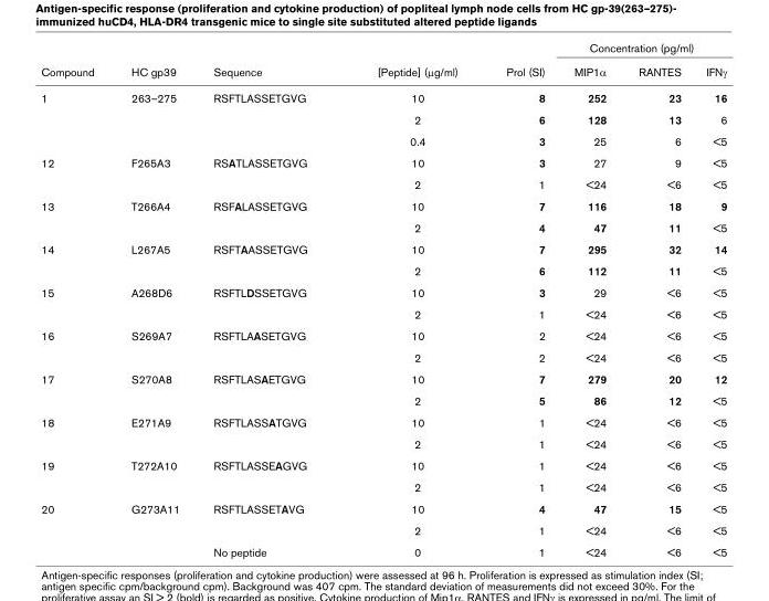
<table><thead><tr><td rowspan="2">Compound</td><td rowspan="2">HC gp39</td><td rowspan="2">Sequence</td><td rowspan="2">[Peptide] (μg/ml)</td><td rowspan="2">Prol (SI)</td><td colspan="3">Concentration (pg/ml)</td></tr><tr><td>MIP1α</td><td>RANTES</td><td>IFNγ</td></tr></thead><tbody><tr><td rowspan="3">1</td><td>263–275</td><td>RSFTLASSETGVG</td><td>10</td><td>8</td><td>252</td><td>23</td><td>16</td></tr><tr><td></td><td></td><td>2</td><td>6</td><td>128</td><td>13</td><td>6</td></tr><tr><td></td><td></td><td>0.4</td><td>3</td><td>25</td><td>6</td><td>&lt;5</td></tr><tr><td rowspan="2">12</td><td>F265A3</td><td>RSATLASSETGVG</td><td>10</td><td>3</td><td>27</td><td>9</td><td>&lt;5</td></tr><tr><td></td><td></td><td>2</td><td>1</td><td>&lt;24</td><td>&lt;6</td><td>&lt;5</td></tr><tr><td rowspan="2">13</td><td>T266A4</td><td>RSFALASSETGVG</td><td>10</td><td>7</td><td>116</td><td>18</td><td>9</td></tr><tr><td></td><td></td><td>2</td><td>4</td><td>47</td><td>11</td><td>&lt;5</td></tr><tr><td rowspan="2">14</td><td>L267A5</td><td>RSFTAASSETGVG</td><td>10</td><td>7</td><td>295</td><td>32</td><td>14</td></tr><tr><td></td><td></td><td>2</td><td>6</td><td>112</td><td>11</td><td>&lt;5</td></tr><tr><td rowspan="2">15</td><td>A268D6</td><td>RSFTLDSSETGVG</td><td>10</td><td>3</td><td>29</td><td>&lt;6</td><td>&lt;5</td></tr><tr><td></td><td></td><td>2</td><td>1</td><td>&lt;24</td><td>&lt;6</td><td>&lt;5</td></tr><tr><td rowspan="2">16</td><td>S269A7</td><td>RSFTLAASETGVG</td><td>10</td><td>2</td><td>&lt;24</td><td>&lt;6</td><td>&lt;5</td></tr><tr><td></td><td></td><td>2</td><td>2</td><td>&lt;24</td><td>&lt;6</td><td>&lt;5</td></tr><tr><td rowspan="2">17</td><td>S270A8</td><td>RSFTLASAETGVG</td><td>10</td><td>7</td><td>279</td><td>20</td><td>12</td></tr><tr><td></td><td></td><td>2</td><td>5</td><td>86</td><td>12</td><td>&lt;5</td></tr><tr><td rowspan="2">18</td><td>E271A9</td><td>RSFTLASSATGVG</td><td>10</td><td>1</td><td>&lt;24</td><td>&lt;6</td><td>&lt;5</td></tr><tr><td></td><td></td><td>2</td><td>1</td><td>&lt;24</td><td>&lt;6</td><td>&lt;5</td></tr><tr><td rowspan="2">19</td><td>T272A10</td><td>RSFTLASSEAGVG</td><td>10</td><td>1</td><td>&lt;24</td><td>&lt;6</td><td>&lt;5</td></tr><tr><td></td><td></td><td>2</td><td>1</td><td>&lt;24</td><td>&lt;6</td><td>&lt;5</td></tr><tr><td rowspan="3">20</td><td>G273A11</td><td>RSFTLASSETAVG</td><td>10</td><td>4</td><td>47</td><td>15</td><td>&lt;5</td></tr><tr><td></td><td></td><td>2</td><td>1</td><td>&lt;24</td><td>&lt;6</td><td>&lt;5</td></tr><tr><td></td><td>No peptide</td><td>0</td><td>1</td><td>&lt;24</td><td>&lt;6</td><td>&lt;5</td></tr></tbody></table>